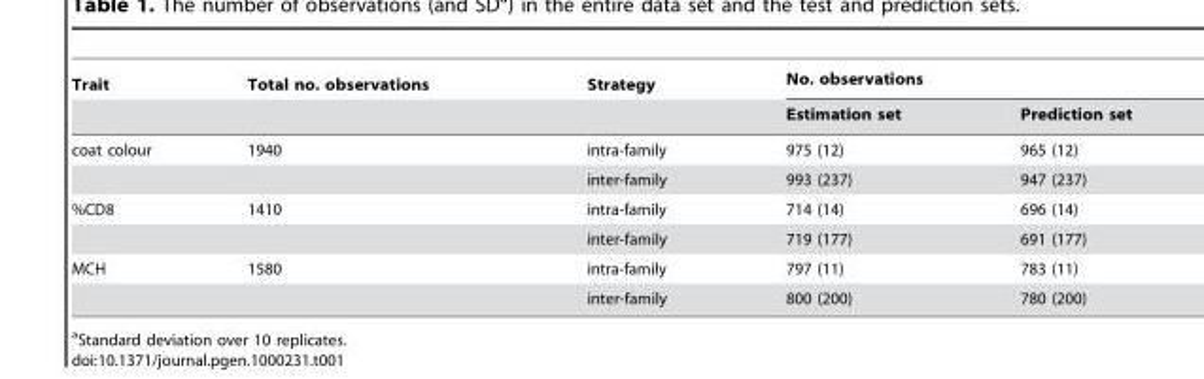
<table><thead><tr><td rowspan="2">Trait</td><td rowspan="2">Total no. observations</td><td rowspan="2">Strategy</td><td colspan="2">No. observations</td></tr><tr><td>Estimation set</td><td>Prediction set</td></tr></thead><tbody><tr><td rowspan="2">coat colour</td><td>1940</td><td>intra-family</td><td>975 (12)</td><td>965 (12)</td></tr><tr><td></td><td>inter-family</td><td>993 (237)</td><td>947 (237)</td></tr><tr><td rowspan="2">%CD8</td><td>1410</td><td>intra-family</td><td>714 (14)</td><td>696 (14)</td></tr><tr><td></td><td>inter-family</td><td>719 (177)</td><td>691 (177)</td></tr><tr><td rowspan="2">MCH</td><td>1580</td><td>intra-family</td><td>797 (11)</td><td>783 (11)</td></tr><tr><td></td><td>inter-family</td><td>800 (200)</td><td>780 (200)</td></tr></tbody></table>